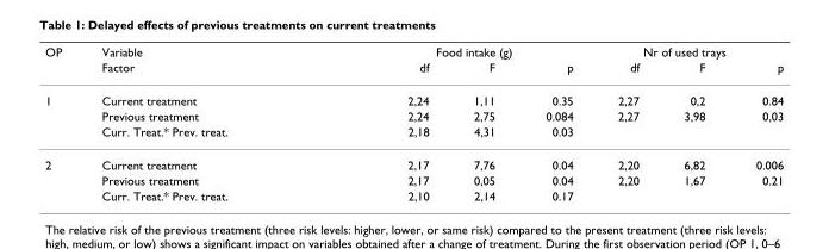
<table><thead><tr><td rowspan="2">OP</td><td rowspan="2">Variable Factor</td><td colspan="3">Food intake (g)</td><td colspan="3">Nr of used trays</td></tr><tr><td>df</td><td>F</td><td>p</td><td>df</td><td>F</td><td>p</td></tr></thead><tbody><tr><td rowspan="3">1</td><td>Current treatment</td><td>2,24</td><td>1,11</td><td>0.35</td><td>2,27</td><td>0,2</td><td>0.84</td></tr><tr><td>Previous treatment</td><td>2,24</td><td>2,75</td><td>0.084</td><td>2,27</td><td>3,98</td><td>0,03</td></tr><tr><td>Curr. Treat.* Prev. treat.</td><td>2,18</td><td>4,31</td><td>0.03</td><td></td><td></td><td></td></tr><tr><td rowspan="3">2</td><td>Current treatment</td><td>2,17</td><td>7,76</td><td>0.04</td><td>2,20</td><td>6,82</td><td>0.006</td></tr><tr><td>Previous treatment</td><td>2,17</td><td>0,05</td><td>0.04</td><td>2,20</td><td>1,67</td><td>0.21</td></tr><tr><td>Curr. Treat.* Prev. treat.</td><td>2,10</td><td>2,14</td><td>0.17</td><td></td><td></td><td></td></tr></tbody></table>